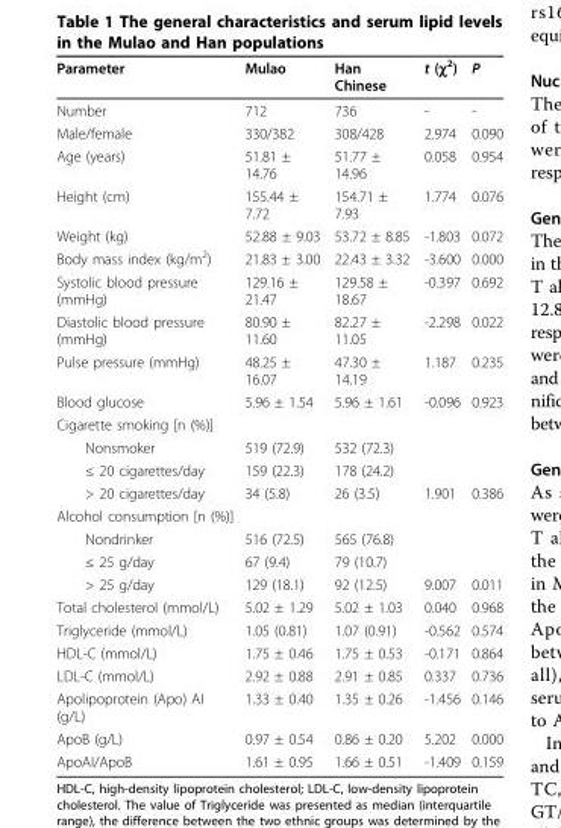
<table><thead><tr><td>Parameter</td><td>Mulao</td><td>Han Chinese</td><td>t (χ<sup>2</sup>)</td><td>P</td></tr></thead><tbody><tr><td>Number</td><td>712</td><td>736</td><td>-</td><td>-</td></tr><tr><td>Male/female</td><td>330/382</td><td>308/428</td><td>2.974</td><td>0.090</td></tr><tr><td>Age (years)</td><td>51.81 ± 14.76</td><td>51.77 ± 14.96</td><td>0.058</td><td>0.954</td></tr><tr><td>Height (cm)</td><td>155.44 ± 7.72</td><td>154.71 ± 7.93</td><td>1.774</td><td>0.076</td></tr><tr><td>Weight (kg)</td><td>52.88 ± 9.03</td><td>53.72 ± 8.85</td><td>-1.803</td><td>0.072</td></tr><tr><td>Body mass index (kg/m<sup>2</sup>)</td><td>21.83 ± 3.00</td><td>22.43 ± 3.32</td><td>-3.600</td><td>0.000</td></tr><tr><td>Systolic blood pressure (mmHg)</td><td>129.16 ± 21.47</td><td>129.58 ± 18.67</td><td>-0.397</td><td>0.692</td></tr><tr><td>Diastolic blood pressure (mmHg)</td><td>80.90 ± 11.60</td><td>82.27 ± 11.05</td><td>-2.298</td><td>0.022</td></tr><tr><td>Pulse pressure (mmHg)</td><td>48.25 ± 16.07</td><td>47.30 ± 14.19</td><td>1.187</td><td>0.235</td></tr><tr><td>Blood glucose</td><td>5.96 ± 1.54</td><td>5.96 ± 1.61</td><td>-0.096</td><td>0.923</td></tr><tr><td colspan="5">Cigarette smoking [n (%)]</td></tr><tr><td>Nonsmoker</td><td>519 (72.9)</td><td>532 (72.3)</td><td></td><td></td></tr><tr><td>≤ 20 cigarettes/day</td><td>159 (22.3)</td><td>178 (24.2)</td><td></td><td></td></tr><tr><td>&gt; 20 cigarettes/day</td><td>34 (5.8)</td><td>26 (3.5)</td><td>1.901</td><td>0.386</td></tr><tr><td colspan="5">Alcohol consumption [n (%)]</td></tr><tr><td>Nondrinker</td><td>516 (72.5)</td><td>565 (76.8)</td><td></td><td></td></tr><tr><td>≤ 25 g/day</td><td>67 (9.4)</td><td>79 (10.7)</td><td></td><td></td></tr><tr><td>&gt; 25 g/day</td><td>129 (18.1)</td><td>92 (12.5)</td><td>9.007</td><td>0.011</td></tr><tr><td>Total cholesterol (mmol/L)</td><td>5.02 ± 1.29</td><td>5.02 ± 1.03</td><td>0.040</td><td>0.968</td></tr><tr><td>Triglyceride (mmol/L)</td><td>1.05 (0.81)</td><td>1.07 (0.91)</td><td>-0.562</td><td>0.574</td></tr><tr><td>HDL-C (mmol/L)</td><td>1.75 ± 0.46</td><td>1.75 ± 0.53</td><td>-0.171</td><td>0.864</td></tr><tr><td>LDL-C (mmol/L)</td><td>2.92 ± 0.88</td><td>2.91 ± 0.85</td><td>0.337</td><td>0.736</td></tr><tr><td>Apolipoprotein (Apo) AI (g/L)</td><td>1.33 ± 0.40</td><td>1.35 ± 0.26</td><td>-1.456</td><td>0.146</td></tr><tr><td>ApoB (g/L)</td><td>0.97 ± 0.54</td><td>0.86 ± 0.20</td><td>5.202</td><td>0.000</td></tr><tr><td>ApoAI/ApoB</td><td>1.61 ± 0.95</td><td>1.66 ± 0.51</td><td>-1.409</td><td>0.159</td></tr></tbody></table>